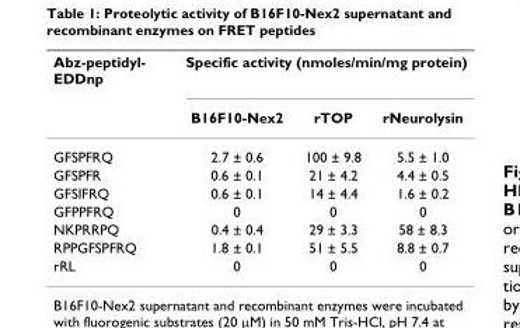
<table><thead><tr><td rowspan="2">Abz-peptidyl- EDDnp</td><td colspan="3">Specific activity (nmoles/min/mg protein)</td></tr><tr><td>B16F10-Nex2</td><td>rTOP</td><td>rNeurolysin</td></tr></thead><tbody><tr><td>GFSPFRQ</td><td>2.7 ± 0.6</td><td>100 ± 9.8</td><td>5.5 ± 1.0</td></tr><tr><td>GFSPFR</td><td>0.6 ± 0.1</td><td>21 ± 4.2</td><td>4.4 ± 0.5</td></tr><tr><td>GFSIFRQ</td><td>0.6 ± 0.1</td><td>14 ± 4.4</td><td>1.6 ± 0.2</td></tr><tr><td>GFPPFRQ</td><td>0</td><td>0</td><td>0</td></tr><tr><td>NKPRRPQ</td><td>0.4 ± 0.4</td><td>29 ± 3.3</td><td>58 ± 8.3</td></tr><tr><td>RPPGFSPFRQ</td><td>1.8 ± 0.1</td><td>51 ± 5.5</td><td>8.8 ± 0.7</td></tr><tr><td>rRL</td><td>0</td><td>0</td><td>0</td></tr></tbody></table>